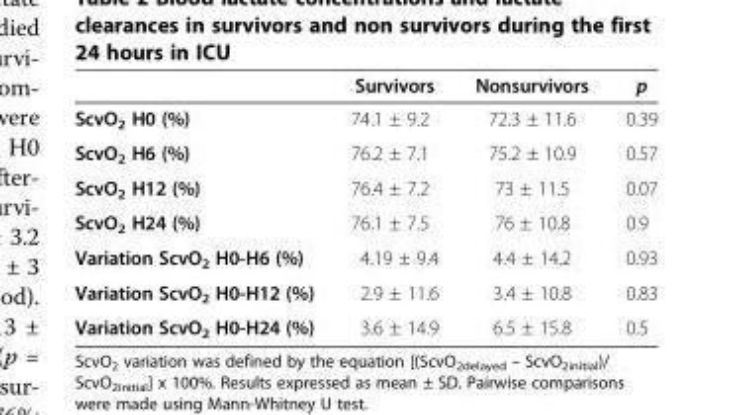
<table><thead><tr><td></td><td>Survivors</td><td>Nonsurvivors</td><td>p</td></tr></thead><tbody><tr><td>ScvO<sub>2</sub> H0 (%)</td><td>74.1 ± 9.2</td><td>72.3 ± 11.6</td><td>0.39</td></tr><tr><td>ScvO<sub>2</sub> H6 (%)</td><td>76.2 ± 7.1</td><td>75.2 ± 10.9</td><td>0.57</td></tr><tr><td>ScvO<sub>2</sub> H12 (%)</td><td>76.4 ± 7.2</td><td>73 ± 11.5</td><td>0.07</td></tr><tr><td>ScvO<sub>2</sub> H24 (%)</td><td>76.1 ± 7.5</td><td>76 ± 10.8</td><td>0.9</td></tr><tr><td>Variation ScvO<sub>2</sub> H0-H6 (%)</td><td>4.19 ± 9.4</td><td>4.4 ± 14.2</td><td>0.93</td></tr><tr><td>Variation ScvO<sub>2</sub> H0-H12 (%)</td><td>2.9 ± 11.6</td><td>3.4 ± 10.8</td><td>0.83</td></tr><tr><td>Variation ScvO<sub>2</sub> H0-H24 (%)</td><td>3.6 ± 14.9</td><td>6.5 ± 15.8</td><td>0.5</td></tr></tbody></table>